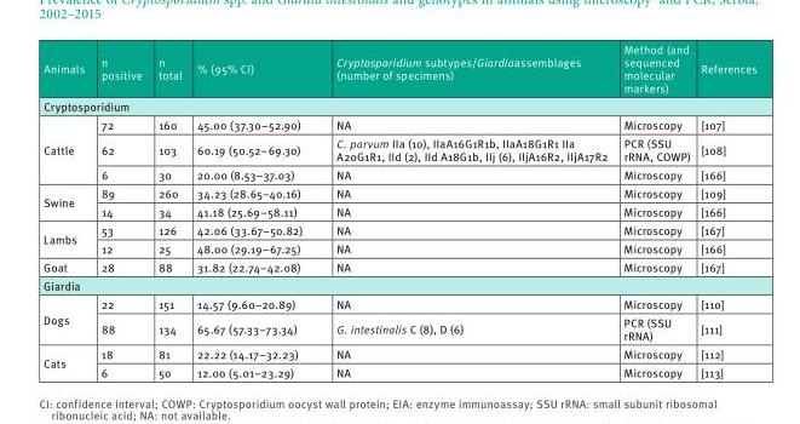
<table><thead><tr><td>Animals</td><td>n positive</td><td>n total</td><td>% (95% CI)</td><td>Cryptosporidium subtypes/Giardiaassemblages (number of specimens)</td><td>Method (and sequenced molecular markers)</td><td>References</td></tr></thead><tbody><tr><td colspan="7">Cryptosporidium</td></tr><tr><td rowspan="3">Cattle</td><td>72</td><td>160</td><td>45.00 (37.30–52.90)</td><td>NA</td><td>Microscopy</td><td>[107]</td></tr><tr><td>62</td><td>103</td><td>60.19 (50.52–69.30)</td><td>C. parvum IIa (10), IIaA16G1R1b, IIaA18G1R1 IIa A20G1R1, IId (2), IId A18G1b, IIj (6), IIjA16R2, IIjA17R2</td><td>PCR (SSU rRNA, COWP)</td><td>[108]</td></tr><tr><td>6</td><td>30</td><td>20.00 (8.53–37.03)</td><td>NA</td><td>Microscopy</td><td>[166]</td></tr><tr><td rowspan="2">Swine</td><td>89</td><td>260</td><td>34.23 (28.65–40.16)</td><td>NA</td><td>Microscopy</td><td>[109]</td></tr><tr><td>14</td><td>34</td><td>41.18 (25.69–58.11)</td><td>NA</td><td>Microscopy</td><td>[166]</td></tr><tr><td rowspan="2">Lambs</td><td>53</td><td>126</td><td>42.06 (33.67–50.82)</td><td>NA</td><td>Microscopy</td><td>[167]</td></tr><tr><td>12</td><td>25</td><td>48.00 (29.19–67.25)</td><td>NA</td><td>Microscopy</td><td>[166]</td></tr><tr><td>Goat</td><td>28</td><td>88</td><td>31.82 (22.74–42.08)</td><td>NA</td><td>Microscopy</td><td>[167]</td></tr><tr><td colspan="7">Giardia</td></tr><tr><td rowspan="2">Dogs</td><td>22</td><td>151</td><td>14.57 (9.60–20.89)</td><td>NA</td><td>Microscopy</td><td>[110]</td></tr><tr><td>88</td><td>134</td><td>65.67 (57.33–73.34)</td><td>G. intestinalis C (8), D (6)</td><td>PCR (SSU rRNA)</td><td>[111]</td></tr><tr><td rowspan="2">Cats</td><td>18</td><td>81</td><td>22.22 (14.17–32.23)</td><td>NA</td><td>Microscopy</td><td>[112]</td></tr><tr><td>6</td><td>50</td><td>12.00 (5.01–23.29)</td><td>NA</td><td>Microscopy</td><td>[113]</td></tr></tbody></table>